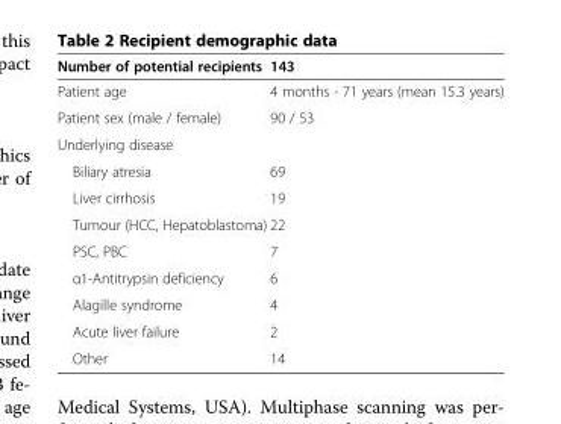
<table><thead><tr><td>Number of potential recipients</td><td>143</td></tr></thead><tbody><tr><td>Patient age</td><td>4 months - 71 years (mean 15.3 years)</td></tr><tr><td>Patient sex (male / female)</td><td>90 / 53</td></tr><tr><td colspan="2">Underlying disease</td></tr><tr><td>Biliary atresia</td><td>69</td></tr><tr><td>Liver cirrhosis</td><td>19</td></tr><tr><td>Tumour (HCC, Hepatoblastoma)</td><td>22</td></tr><tr><td>PSC, PBC</td><td>7</td></tr><tr><td>α1-Antitrypsin deficiency</td><td>6</td></tr><tr><td>Alagille syndrome</td><td>4</td></tr><tr><td>Acute liver failure</td><td>2</td></tr><tr><td>Other</td><td>14</td></tr></tbody></table>